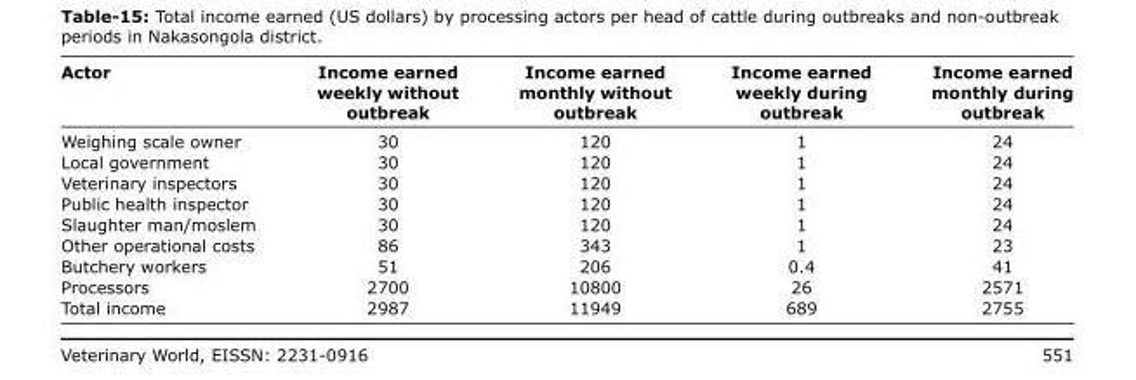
<table><thead><tr><td>Actor</td><td>Income earned weekly without outbreak</td><td>Income earned monthly without outbreak</td><td>Income earned weekly during outbreak</td><td>Income earned monthly during outbreak</td></tr></thead><tbody><tr><td>Weighing scale owner</td><td>30</td><td>120</td><td>1</td><td>24</td></tr><tr><td>Local government</td><td>30</td><td>120</td><td>1</td><td>24</td></tr><tr><td>Veterinary inspectors</td><td>30</td><td>120</td><td>1</td><td>24</td></tr><tr><td>Public health inspector</td><td>30</td><td>120</td><td>1</td><td>24</td></tr><tr><td>Slaughter man/moslem</td><td>30</td><td>120</td><td>1</td><td>24</td></tr><tr><td>Other operational costs</td><td>86</td><td>343</td><td>1</td><td>23</td></tr><tr><td>Butchery workers</td><td>51</td><td>206</td><td>0.4</td><td>41</td></tr><tr><td>Processors</td><td>2700</td><td>10800</td><td>26</td><td>2571</td></tr><tr><td>Total income</td><td>2987</td><td>11949</td><td>689</td><td>2755</td></tr></tbody></table>